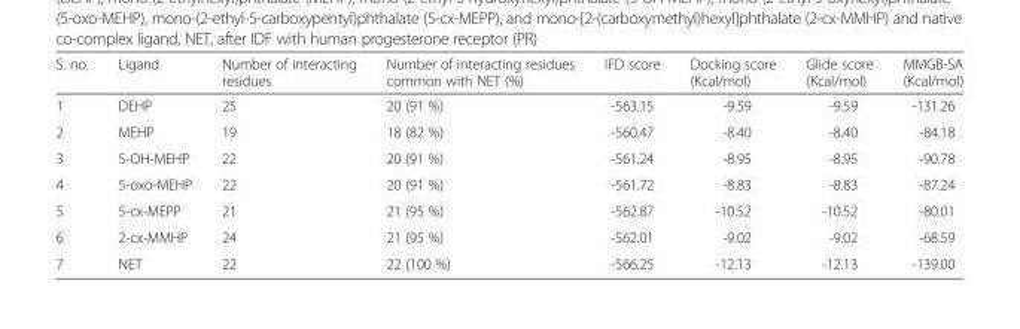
<table><thead><tr><td>S. no.</td><td>Ligand</td><td>Number of interacting residues</td><td>Number of interacting residues common with NET (%)</td><td>IFD score</td><td>Docking score (Kcal/mol)</td><td>Glide score (Kcal/mol)</td><td>MMGB-SA (Kcal/mol)</td></tr></thead><tbody><tr><td>1</td><td>DEHP</td><td>25</td><td>20 (91 %)</td><td>-563.15</td><td>-9.59</td><td>-9.59</td><td>-131.26</td></tr><tr><td>2</td><td>MEHP</td><td>19</td><td>18 (82 %)</td><td>-560.47</td><td>-8.40</td><td>-8.40</td><td>-84.18</td></tr><tr><td>3</td><td>5-OH-MEHP</td><td>22</td><td>20 (91 %)</td><td>-561.24</td><td>-8.95</td><td>-8.95</td><td>-90.78</td></tr><tr><td>4</td><td>5-oxo-MEHP</td><td>22</td><td>20 (91 %)</td><td>-561.72</td><td>-8.83</td><td>-8.83</td><td>-87.24</td></tr><tr><td>5</td><td>5-cx-MEPP</td><td>21</td><td>21 (95 %)</td><td>-562.87</td><td>-10.52</td><td>-10.52</td><td>-80.01</td></tr><tr><td>6</td><td>2-cx-MMHP</td><td>24</td><td>21 (95 %)</td><td>-562.01</td><td>-9.02</td><td>-9.02</td><td>-68.59</td></tr><tr><td>7</td><td>NET</td><td>22</td><td>22 (100 %)</td><td>-566.25</td><td>-12.13</td><td>-12.13</td><td>-139.00</td></tr></tbody></table>